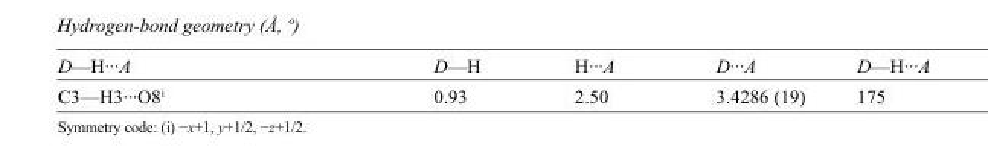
<table><tbody><tr><td>D—H···A</td><td>D—H</td><td>H···A</td><td>D···A</td><td>D—H···A</td></tr><tr><td>C3—H3···O8<sup>i</sup></td><td>0.93</td><td>2.50</td><td>3.4286 (19)</td><td>175</td></tr></tbody></table>